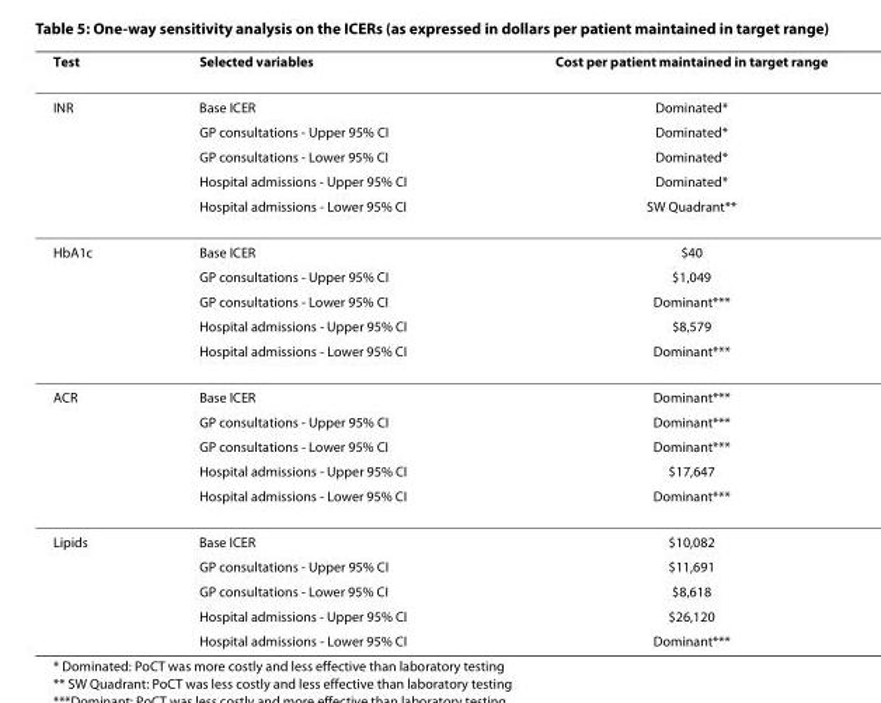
<table><thead><tr><td>Test</td><td>Selected variables</td><td>Cost per patient maintained in target range</td></tr></thead><tbody><tr><td rowspan="5">INR</td><td>Base ICER</td><td>Dominated*</td></tr><tr><td>GP consultations - Upper 95% CI</td><td>Dominated*</td></tr><tr><td>GP consultations - Lower 95% CI</td><td>Dominated*</td></tr><tr><td>Hospital admissions - Upper 95% CI</td><td>Dominated*</td></tr><tr><td>Hospital admissions - Lower 95% CI</td><td>SW Quadrant**</td></tr><tr><td rowspan="5">HbA1c</td><td>Base ICER</td><td>$40</td></tr><tr><td>GP consultations - Upper 95% CI</td><td>$1,049</td></tr><tr><td>GP consultations - Lower 95% CI</td><td>Dominant***</td></tr><tr><td>Hospital admissions - Upper 95% CI</td><td>$8,579</td></tr><tr><td>Hospital admissions - Lower 95% CI</td><td>Dominant***</td></tr><tr><td rowspan="5">ACR</td><td>Base ICER</td><td>Dominant***</td></tr><tr><td>GP consultations - Upper 95% CI</td><td>Dominant***</td></tr><tr><td>GP consultations - Lower 95% CI</td><td>Dominant***</td></tr><tr><td>Hospital admissions - Upper 95% CI</td><td>$17,647</td></tr><tr><td>Hospital admissions - Lower 95% CI</td><td>Dominant***</td></tr><tr><td rowspan="5">Lipids</td><td>Base ICER</td><td>$10,082</td></tr><tr><td>GP consultations - Upper 95% CI</td><td>$11,691</td></tr><tr><td>GP consultations - Lower 95% CI</td><td>$8,618</td></tr><tr><td>Hospital admissions - Upper 95% CI</td><td>$26,120</td></tr><tr><td>Hospital admissions - Lower 95% CI</td><td>Dominant***</td></tr></tbody></table>